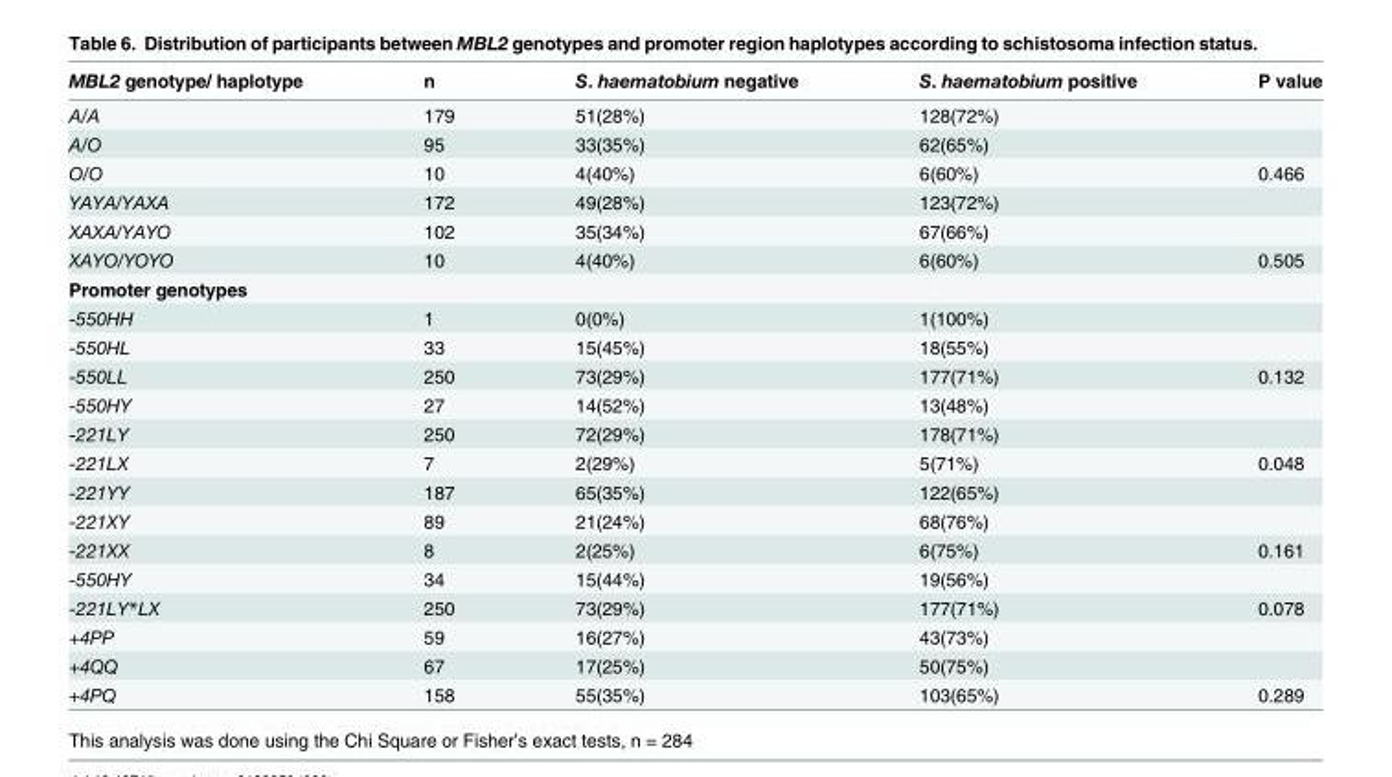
<table><thead><tr><td>MBL2 genotype/ haplotype</td><td>n</td><td>S. haematobium negative</td><td>S. haematobium positive</td><td>P value</td></tr></thead><tbody><tr><td>A/A</td><td>179</td><td>51(28%)</td><td>128(72%)</td><td></td></tr><tr><td>A/O</td><td>95</td><td>33(35%)</td><td>62(65%)</td><td></td></tr><tr><td>O/O</td><td>10</td><td>4(40%)</td><td>6(60%)</td><td>0.466</td></tr><tr><td>YAYA/YAXA</td><td>172</td><td>49(28%)</td><td>123(72%)</td><td></td></tr><tr><td>XAXA/YAYO</td><td>102</td><td>35(34%)</td><td>67(66%)</td><td></td></tr><tr><td>XAYO/YOYO</td><td>10</td><td>4(40%)</td><td>6(60%)</td><td>0.505</td></tr><tr><td colspan="5">Promoter genotypes</td></tr><tr><td>-550HH</td><td>1</td><td>0(0%)</td><td>1(100%)</td><td></td></tr><tr><td>-550HL</td><td>33</td><td>15(45%)</td><td>18(55%)</td><td></td></tr><tr><td>-550LL</td><td>250</td><td>73(29%)</td><td>177(71%)</td><td>0.132</td></tr><tr><td>-550HY</td><td>27</td><td>14(52%)</td><td>13(48%)</td><td></td></tr><tr><td>-221LY</td><td>250</td><td>72(29%)</td><td>178(71%)</td><td></td></tr><tr><td>-221LX</td><td>7</td><td>2(29%)</td><td>5(71%)</td><td>0.048</td></tr><tr><td>-221YY</td><td>187</td><td>65(35%)</td><td>122(65%)</td><td></td></tr><tr><td>-221XY</td><td>89</td><td>21(24%)</td><td>68(76%)</td><td></td></tr><tr><td>-221XX</td><td>8</td><td>2(25%)</td><td>6(75%)</td><td>0.161</td></tr><tr><td>-550HY</td><td>34</td><td>15(44%)</td><td>19(56%)</td><td></td></tr><tr><td>-221LY*LX</td><td>250</td><td>73(29%)</td><td>177(71%)</td><td>0.078</td></tr><tr><td>+4PP</td><td>59</td><td>16(27%)</td><td>43(73%)</td><td></td></tr><tr><td>+4QQ</td><td>67</td><td>17(25%)</td><td>50(75%)</td><td></td></tr><tr><td>+4PQ</td><td>158</td><td>55(35%)</td><td>103(65%)</td><td>0.289</td></tr></tbody></table>